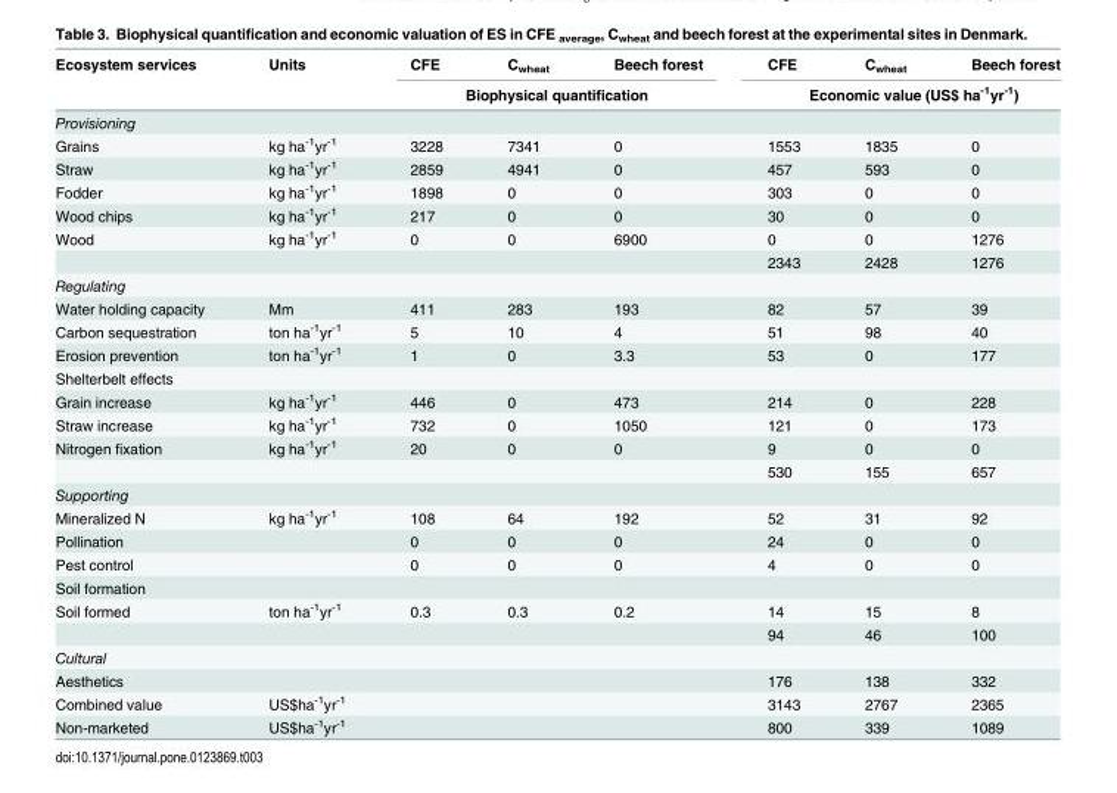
<table><thead><tr><td rowspan="2">Ecosystem services</td><td rowspan="2">Units</td><td>CFE</td><td>C<sub>wheat</sub></td><td>Beech forest</td><td>CFE</td><td>C<sub>wheat</sub></td><td>Beech forest</td></tr><tr><td colspan="3">Biophysical quantification</td><td colspan="3">Economic value (US$ ha<sup>-1</sup>yr<sup>-1</sup>)</td></tr></thead><tbody><tr><td colspan="8">Provisioning</td></tr><tr><td>Grains</td><td>kg ha<sup>-1</sup>yr<sup>-1</sup></td><td>3228</td><td>7341</td><td>0</td><td>1553</td><td>1835</td><td>0</td></tr><tr><td>Straw</td><td>kg ha<sup>-1</sup>yr<sup>-1</sup></td><td>2859</td><td>4941</td><td>0</td><td>457</td><td>593</td><td>0</td></tr><tr><td>Fodder</td><td>kg ha<sup>-1</sup>yr<sup>-1</sup></td><td>1898</td><td>0</td><td>0</td><td>303</td><td>0</td><td>0</td></tr><tr><td>Wood chips</td><td>kg ha<sup>-1</sup>yr<sup>-1</sup></td><td>217</td><td>0</td><td>0</td><td>30</td><td>0</td><td>0</td></tr><tr><td rowspan="2">Wood</td><td>kg ha<sup>-1</sup>yr<sup>-1</sup></td><td>0</td><td>0</td><td>6900</td><td>0</td><td>0</td><td>1276</td></tr><tr><td></td><td></td><td></td><td></td><td>2343</td><td>2428</td><td>1276</td></tr><tr><td colspan="8">Regulating</td></tr><tr><td>Water holding capacity</td><td>Mm</td><td>411</td><td>283</td><td>193</td><td>82</td><td>57</td><td>39</td></tr><tr><td>Carbon sequestration</td><td>ton ha<sup>-1</sup>yr<sup>-1</sup></td><td>5</td><td>10</td><td>4</td><td>51</td><td>98</td><td>40</td></tr><tr><td>Erosion prevention</td><td>ton ha<sup>-1</sup>yr<sup>-1</sup></td><td>1</td><td>0</td><td>3.3</td><td>53</td><td>0</td><td>177</td></tr><tr><td colspan="8">Shelterbelt effects</td></tr><tr><td>Grain increase</td><td>kg ha<sup>-1</sup>yr<sup>-1</sup></td><td>446</td><td>0</td><td>473</td><td>214</td><td>0</td><td>228</td></tr><tr><td>Straw increase</td><td>kg ha<sup>-1</sup>yr<sup>-1</sup></td><td>732</td><td>0</td><td>1050</td><td>121</td><td>0</td><td>173</td></tr><tr><td rowspan="2">Nitrogen fixation</td><td>kg ha<sup>-1</sup>yr<sup>-1</sup></td><td>20</td><td>0</td><td>0</td><td>9</td><td>0</td><td>0</td></tr><tr><td></td><td></td><td></td><td></td><td>530</td><td>155</td><td>657</td></tr><tr><td colspan="8">Supporting</td></tr><tr><td>Mineralized N</td><td>kg ha<sup>-1</sup>yr<sup>-1</sup></td><td>108</td><td>64</td><td>192</td><td>52</td><td>31</td><td>92</td></tr><tr><td>Pollination</td><td></td><td>0</td><td>0</td><td>0</td><td>24</td><td>0</td><td>0</td></tr><tr><td>Pest control</td><td></td><td>0</td><td>0</td><td>0</td><td>4</td><td>0</td><td>0</td></tr><tr><td colspan="8">Soil formation</td></tr><tr><td rowspan="2">Soil formed</td><td>ton ha<sup>-1</sup>yr<sup>-1</sup></td><td>0.3</td><td>0.3</td><td>0.2</td><td>14</td><td>15</td><td>8</td></tr><tr><td></td><td></td><td></td><td></td><td>94</td><td>46</td><td>100</td></tr><tr><td colspan="8">Cultural</td></tr><tr><td>Aesthetics</td><td></td><td></td><td></td><td></td><td>176</td><td>138</td><td>332</td></tr><tr><td>Combined value</td><td>US$ha<sup>-1</sup>yr<sup>-1</sup></td><td></td><td></td><td></td><td>3143</td><td>2767</td><td>2365</td></tr><tr><td>Non-marketed</td><td>US$ha<sup>-1</sup>yr<sup>-1</sup></td><td></td><td></td><td></td><td>800</td><td>339</td><td>1089</td></tr></tbody></table>